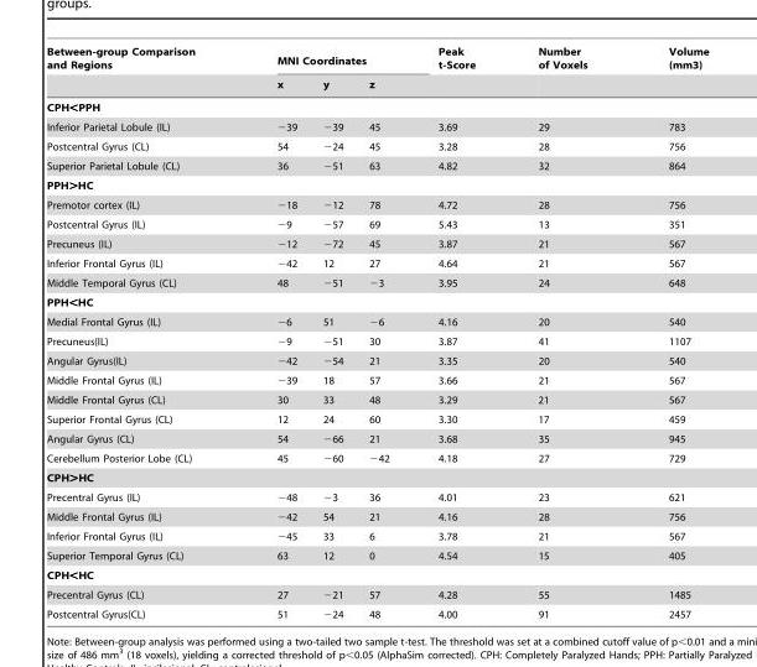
<table><thead><tr><td rowspan="2">Between-group Comparison and Regions</td><td colspan="3">MNI Coordinates</td><td rowspan="2">Peak t-Score</td><td rowspan="2">Number of Voxels</td><td rowspan="2">Volume (mm3)</td></tr><tr><td>x</td><td>y</td><td>z</td></tr></thead><tbody><tr><td colspan="7">CPH&lt;PPH</td></tr><tr><td>Inferior Parietal Lobule (IL)</td><td>−39</td><td>−39</td><td>45</td><td>3.69</td><td>29</td><td>783</td></tr><tr><td>Postcentral Gyrus (CL)</td><td>54</td><td>−24</td><td>45</td><td>3.28</td><td>28</td><td>756</td></tr><tr><td>Superior Parietal Lobule (CL)</td><td>36</td><td>−51</td><td>63</td><td>4.82</td><td>32</td><td>864</td></tr><tr><td colspan="7">PPH&gt;HC</td></tr><tr><td>Premotor cortex (IL)</td><td>−18</td><td>−12</td><td>78</td><td>4.72</td><td>28</td><td>756</td></tr><tr><td>Postcentral Gyrus (IL)</td><td>−9</td><td>−57</td><td>69</td><td>5.43</td><td>13</td><td>351</td></tr><tr><td>Precuneus (IL)</td><td>−12</td><td>−72</td><td>45</td><td>3.87</td><td>21</td><td>567</td></tr><tr><td>Inferior Frontal Gyrus (IL)</td><td>−42</td><td>12</td><td>27</td><td>4.64</td><td>21</td><td>567</td></tr><tr><td>Middle Temporal Gyrus (CL)</td><td>48</td><td>−51</td><td>−3</td><td>3.95</td><td>24</td><td>648</td></tr><tr><td colspan="7">PPH&lt;HC</td></tr><tr><td>Medial Frontal Gyrus (IL)</td><td>−6</td><td>51</td><td>−6</td><td>4.16</td><td>20</td><td>540</td></tr><tr><td>Precuneus(IL)</td><td>−9</td><td>−51</td><td>30</td><td>3.87</td><td>41</td><td>1107</td></tr><tr><td>Angular Gyrus(IL)</td><td>−42</td><td>−54</td><td>21</td><td>3.35</td><td>20</td><td>540</td></tr><tr><td>Middle Frontal Gyrus (IL)</td><td>−39</td><td>18</td><td>57</td><td>3.66</td><td>21</td><td>567</td></tr><tr><td>Middle Frontal Gyrus (CL)</td><td>30</td><td>33</td><td>48</td><td>3.29</td><td>21</td><td>567</td></tr><tr><td>Superior Frontal Gyrus (CL)</td><td>12</td><td>24</td><td>60</td><td>3.30</td><td>17</td><td>459</td></tr><tr><td>Angular Gyrus (CL)</td><td>54</td><td>−66</td><td>21</td><td>3.68</td><td>35</td><td>945</td></tr><tr><td>Cerebellum Posterior Lobe (CL)</td><td>45</td><td>−60</td><td>−42</td><td>4.18</td><td>27</td><td>729</td></tr><tr><td colspan="7">CPH&gt;HC</td></tr><tr><td>Precentral Gyrus (IL)</td><td>−48</td><td>−3</td><td>36</td><td>4.01</td><td>23</td><td>621</td></tr><tr><td>Middle Frontal Gyrus (IL)</td><td>−42</td><td>54</td><td>21</td><td>4.16</td><td>28</td><td>756</td></tr><tr><td>Inferior Frontal Gyrus (IL)</td><td>−45</td><td>33</td><td>6</td><td>3.78</td><td>21</td><td>567</td></tr><tr><td>Superior Temporal Gyrus (CL)</td><td>63</td><td>12</td><td>0</td><td>4.54</td><td>15</td><td>405</td></tr><tr><td colspan="7">CPH&lt;HC</td></tr><tr><td>Precentral Gyrus (CL)</td><td>27</td><td>−21</td><td>57</td><td>4.28</td><td>55</td><td>1485</td></tr><tr><td>Postcentral Gyrus(CL)</td><td>51</td><td>−24</td><td>48</td><td>4.00</td><td>91</td><td>2457</td></tr></tbody></table>